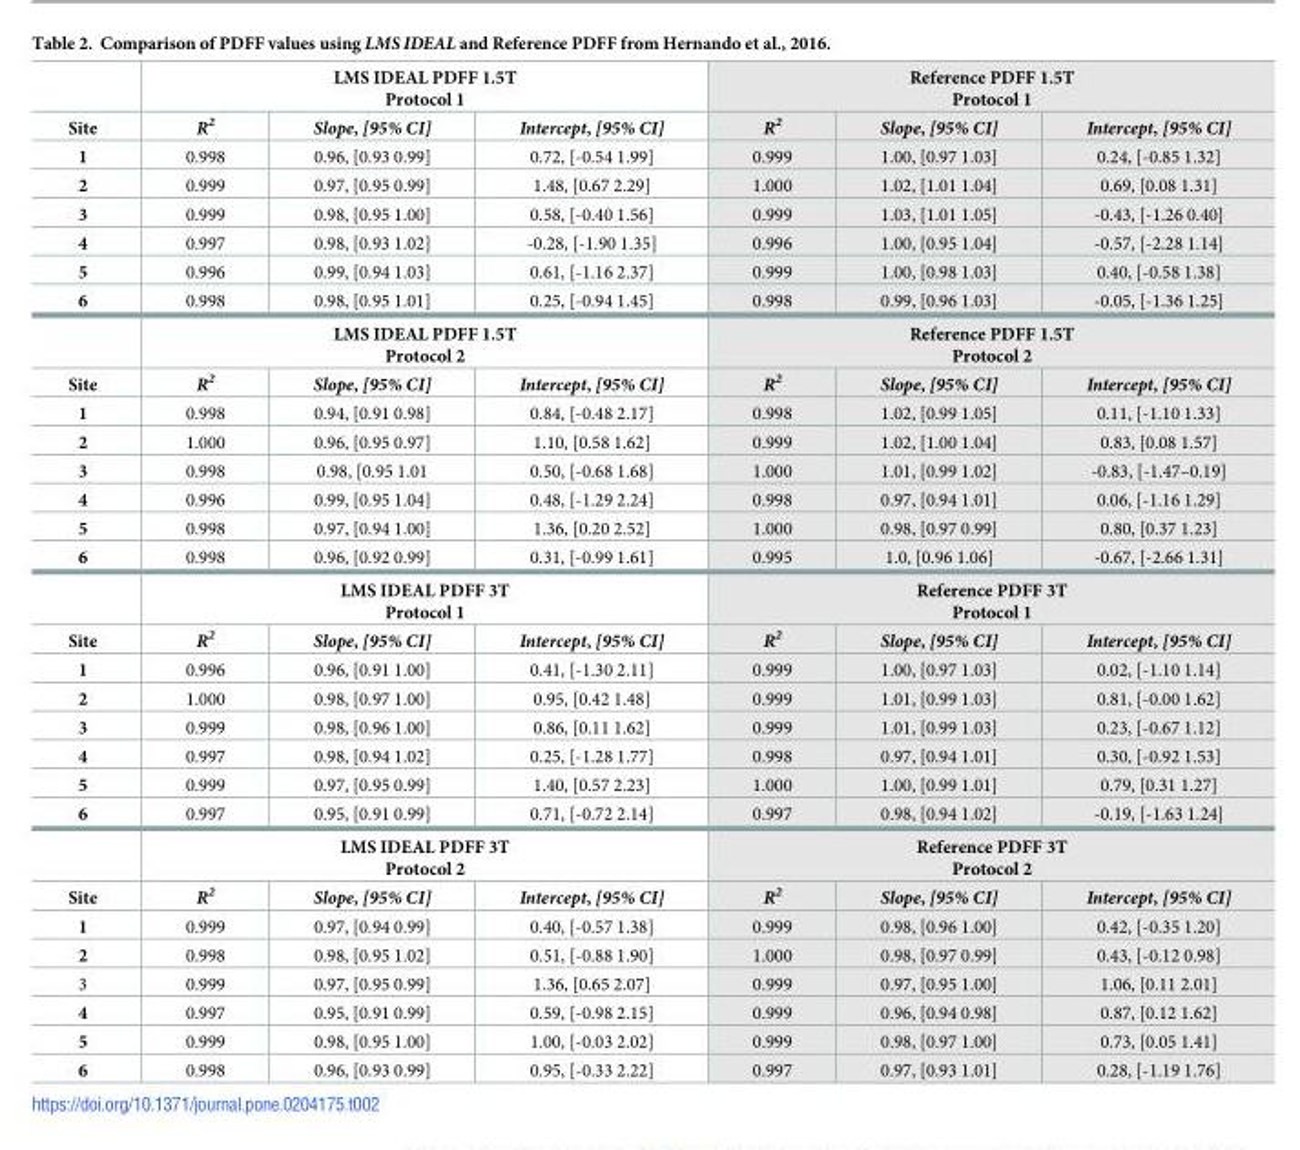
<table><thead><tr><td rowspan="2">Site</td><td colspan="3">LMS IDEAL PDFF 1.5T Protocol 1</td><td colspan="3">Reference PDFF 1.5T Protocol 1</td></tr><tr><td>R<sup>2</sup></td><td>Slope, [95% CI]</td><td>Intercept, [95% CI]</td><td>R<sup>2</sup></td><td>Slope, [95% CI]</td><td>Intercept, [95% CI]</td></tr></thead><tbody><tr><td>1</td><td>0.998</td><td>0.96, [0.93 0.99]</td><td>0.72, [-0.54 1.99]</td><td>0.999</td><td>1.00, [0.97 1.03]</td><td>0.24, [-0.85 1.32]</td></tr><tr><td>2</td><td>0.999</td><td>0.97, [0.95 0.99]</td><td>1.48, [0.67 2.29]</td><td>1.000</td><td>1.02, [1.01 1.04]</td><td>0.69, [0.08 1.31]</td></tr><tr><td>3</td><td>0.999</td><td>0.98, [0.95 1.00]</td><td>0.58, [-0.40 1.56]</td><td>0.999</td><td>1.03, [1.01 1.05]</td><td>-0.43, [-1.26 0.40]</td></tr><tr><td>4</td><td>0.997</td><td>0.98, [0.93 1.02]</td><td>-0.28, [-1.90 1.35]</td><td>0.996</td><td>1.00, [0.95 1.04]</td><td>-0.57, [-2.28 1.14]</td></tr><tr><td>5</td><td>0.996</td><td>0.99, [0.94 1.03]</td><td>0.61, [-1.16 2.37]</td><td>0.999</td><td>1.00, [0.98 1.03]</td><td>0.40, [-0.58 1.38]</td></tr><tr><td rowspan="2">6</td><td>0.998</td><td>0.98, [0.95 1.01]</td><td>0.25, [-0.94 1.45]</td><td>0.998</td><td>0.99, [0.96 1.03]</td><td>-0.05, [-1.36 1.25]</td></tr><tr><td colspan="3">LMS IDEAL PDFF 1.5T Protocol 2</td><td colspan="3">Reference PDFF 1.5T Protocol 2</td></tr><tr><td>Site</td><td>R<sup>2</sup></td><td>Slope, [95% CI]</td><td>Intercept, [95% CI]</td><td>R<sup>2</sup></td><td>Slope, [95% CI]</td><td>Intercept, [95% CI]</td></tr><tr><td>1</td><td>0.998</td><td>0.94, [0.91 0.98]</td><td>0.84, [-0.48 2.17]</td><td>0.998</td><td>1.02, [0.99 1.05]</td><td>0.11, [-1.10 1.33]</td></tr><tr><td>2</td><td>1.000</td><td>0.96, [0.95 0.97]</td><td>1.10, [0.58 1.62]</td><td>0.999</td><td>1.02, [1.00 1.04]</td><td>0.83, [0.08 1.57]</td></tr><tr><td>3</td><td>0.998</td><td>0.98, [0.95 1.01</td><td>0.50, [-0.68 1.68]</td><td>1.000</td><td>1.01, [0.99 1.02]</td><td>-0.83, [-1.47–0.19]</td></tr><tr><td>4</td><td>0.996</td><td>0.99, [0.95 1.04]</td><td>0.48, [-1.29 2.24]</td><td>0.998</td><td>0.97, [0.94 1.01]</td><td>0.06, [-1.16 1.29]</td></tr><tr><td>5</td><td>0.998</td><td>0.97, [0.94 1.00]</td><td>1.36, [0.20 2.52]</td><td>1.000</td><td>0.98, [0.97 0.99]</td><td>0.80, [0.37 1.23]</td></tr><tr><td rowspan="2">6</td><td>0.998</td><td>0.96, [0.92 0.99]</td><td>0.31, [-0.99 1.61]</td><td>0.995</td><td>1.0, [0.96 1.06]</td><td>-0.67, [-2.66 1.31]</td></tr><tr><td colspan="3">LMS IDEAL PDFF 3T Protocol 1</td><td colspan="3">Reference PDFF 3T Protocol 1</td></tr><tr><td>Site</td><td>R<sup>2</sup></td><td>Slope, [95% CI]</td><td>Intercept, [95% CI]</td><td>R<sup>2</sup></td><td>Slope, [95% CI]</td><td>Intercept, [95% CI]</td></tr><tr><td>1</td><td>0.996</td><td>0.96, [0.91 1.00]</td><td>0.41, [-1.30 2.11]</td><td>0.999</td><td>1.00, [0.97 1.03]</td><td>0.02, [-1.10 1.14]</td></tr><tr><td>2</td><td>1.000</td><td>0.98, [0.97 1.00]</td><td>0.95, [0.42 1.48]</td><td>0.999</td><td>1.01, [0.99 1.03]</td><td>0.81, [-0.00 1.62]</td></tr><tr><td>3</td><td>0.999</td><td>0.98, [0.96 1.00]</td><td>0.86, [0.11 1.62]</td><td>0.999</td><td>1.01, [0.99 1.03]</td><td>0.23, [-0.67 1.12]</td></tr><tr><td>4</td><td>0.997</td><td>0.98, [0.94 1.02]</td><td>0.25, [-1.28 1.77]</td><td>0.998</td><td>0.97, [0.94 1.01]</td><td>0.30, [-0.92 1.53]</td></tr><tr><td>5</td><td>0.999</td><td>0.97, [0.95 0.99]</td><td>1.40, [0.57 2.23]</td><td>1.000</td><td>1.00, [0.99 1.01]</td><td>0.79, [0.31 1.27]</td></tr><tr><td rowspan="2">6</td><td>0.997</td><td>0.95, [0.91 0.99]</td><td>0.71, [-0.72 2.14]</td><td>0.997</td><td>0.98, [0.94 1.02]</td><td>-0.19, [-1.63 1.24]</td></tr><tr><td colspan="3">LMS IDEAL PDFF 3T Protocol 2</td><td colspan="3">Reference PDFF 3T Protocol 2</td></tr><tr><td>Site</td><td>R<sup>2</sup></td><td>Slope, [95% CI]</td><td>Intercept, [95% CI]</td><td>R<sup>2</sup></td><td>Slope, [95% CI]</td><td>Intercept, [95% CI]</td></tr><tr><td>1</td><td>0.999</td><td>0.97, [0.94 0.99]</td><td>0.40, [-0.57 1.38]</td><td>0.999</td><td>0.98, [0.96 1.00]</td><td>0.42, [-0.35 1.20]</td></tr><tr><td>2</td><td>0.998</td><td>0.98, [0.95 1.02]</td><td>0.51, [-0.88 1.90]</td><td>1.000</td><td>0.98, [0.97 0.99]</td><td>0.43, [-0.12 0.98]</td></tr><tr><td>3</td><td>0.999</td><td>0.97, [0.95 0.99]</td><td>1.36, [0.65 2.07]</td><td>0.999</td><td>0.97, [0.95 1.00]</td><td>1.06, [0.11 2.01]</td></tr><tr><td>4</td><td>0.997</td><td>0.95, [0.91 0.99]</td><td>0.59, [-0.98 2.15]</td><td>0.999</td><td>0.96, [0.94 0.98]</td><td>0.87, [0.12 1.62]</td></tr><tr><td>5</td><td>0.999</td><td>0.98, [0.95 1.00]</td><td>1.00, [-0.03 2.02]</td><td>0.999</td><td>0.98, [0.97 1.00]</td><td>0.73, [0.05 1.41]</td></tr><tr><td>6</td><td>0.998</td><td>0.96, [0.93 0.99]</td><td>0.95, [-0.33 2.22]</td><td>0.997</td><td>0.97, [0.93 1.01]</td><td>0.28, [-1.19 1.76]</td></tr></tbody></table>